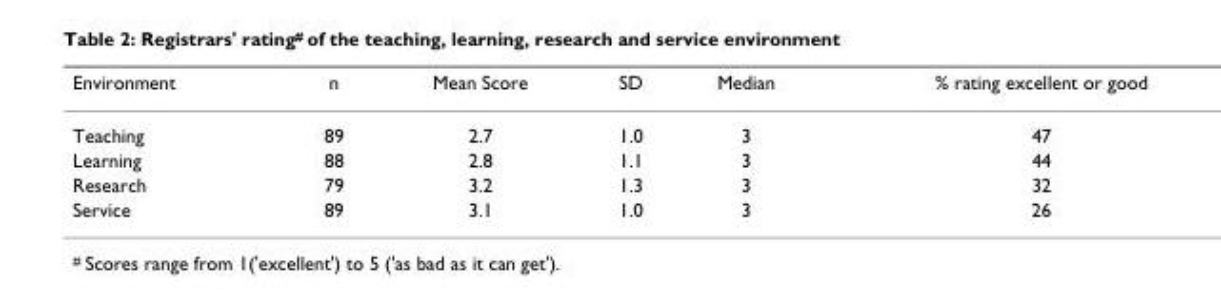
<table><thead><tr><td>Environment</td><td>n</td><td>Mean Score</td><td>SD</td><td>Median</td><td>% rating excellent or good</td></tr></thead><tbody><tr><td>Teaching</td><td>89</td><td>2.7</td><td>1.0</td><td>3</td><td>47</td></tr><tr><td>Learning</td><td>88</td><td>2.8</td><td>1.1</td><td>3</td><td>44</td></tr><tr><td>Research</td><td>79</td><td>3.2</td><td>1.3</td><td>3</td><td>32</td></tr><tr><td>Service</td><td>89</td><td>3.1</td><td>1.0</td><td>3</td><td>26</td></tr></tbody></table>